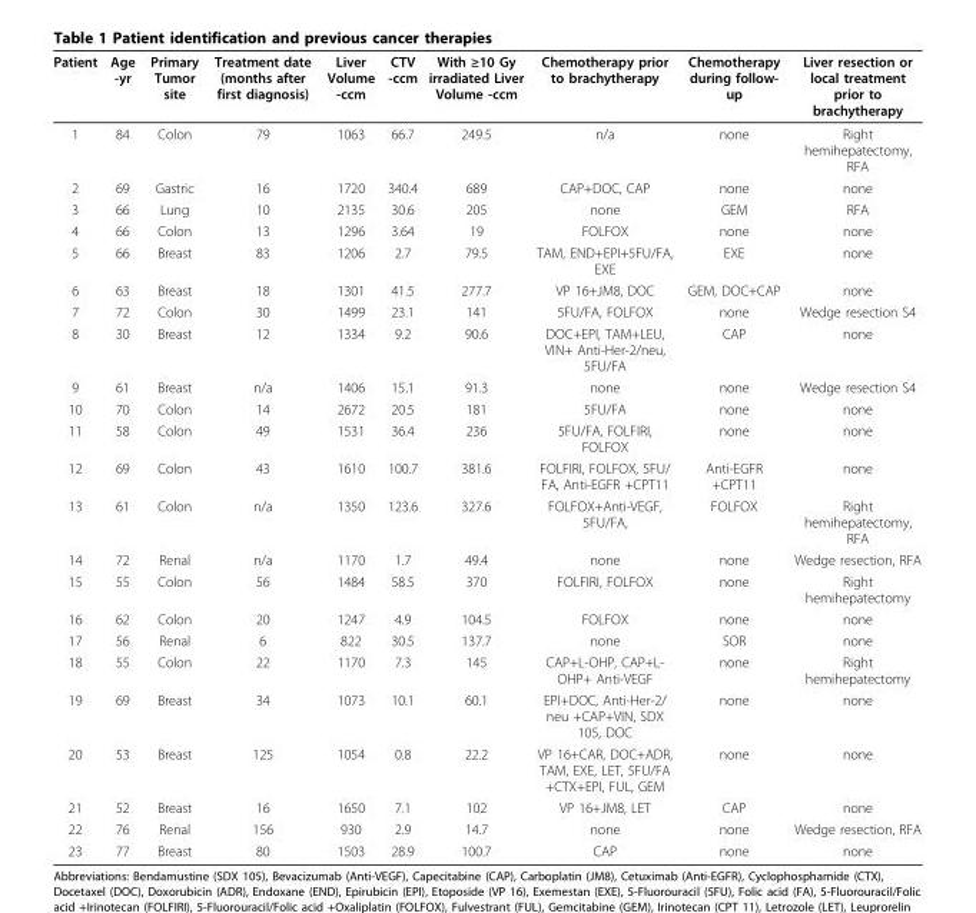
<table><thead><tr><td>Patient</td><td>Age -yr</td><td>Primary Tumor site</td><td>Treatment date (months after first diagnosis)</td><td>Liver Volume -ccm</td><td>CTV -ccm</td><td>With ≥10 Gy irradiated Liver Volume -ccm</td><td>Chemotherapy prior to brachytherapy</td><td>Chemotherapy during follow- up</td><td>Liver resection or local treatment prior to brachytherapy</td></tr></thead><tbody><tr><td>1</td><td>84</td><td>Colon</td><td>79</td><td>1063</td><td>66.7</td><td>249.5</td><td>n/a</td><td>none</td><td>Right hemihepatectomy, RFA</td></tr><tr><td>2</td><td>69</td><td>Gastric</td><td>16</td><td>1720</td><td>340.4</td><td>689</td><td>CAP+DOC, CAP</td><td>none</td><td>none</td></tr><tr><td>3</td><td>66</td><td>Lung</td><td>10</td><td>2135</td><td>30.6</td><td>205</td><td>none</td><td>GEM</td><td>RFA</td></tr><tr><td>4</td><td>66</td><td>Colon</td><td>13</td><td>1296</td><td>3.64</td><td>19</td><td>FOLFOX</td><td>none</td><td>none</td></tr><tr><td>5</td><td>66</td><td>Breast</td><td>83</td><td>1206</td><td>2.7</td><td>79.5</td><td>TAM, END+EPI+5FU/FA, EXE</td><td>EXE</td><td>none</td></tr><tr><td>6</td><td>63</td><td>Breast</td><td>18</td><td>1301</td><td>41.5</td><td>277.7</td><td>VP 16+JM8, DOC</td><td>GEM, DOC+CAP</td><td>none</td></tr><tr><td>7</td><td>72</td><td>Colon</td><td>30</td><td>1499</td><td>23.1</td><td>141</td><td>5FU/FA, FOLFOX</td><td>none</td><td>Wedge resection S4</td></tr><tr><td>8</td><td>30</td><td>Breast</td><td>12</td><td>1334</td><td>9.2</td><td>90.6</td><td>DOC+EPI, TAM+LEU, VIN+ Anti-Her-2/neu, 5FU/FA</td><td>CAP</td><td>none</td></tr><tr><td>9</td><td>61</td><td>Breast</td><td>n/a</td><td>1406</td><td>15.1</td><td>91.3</td><td>none</td><td>none</td><td>Wedge resection S4</td></tr><tr><td>10</td><td>70</td><td>Colon</td><td>14</td><td>2672</td><td>20.5</td><td>181</td><td>5FU/FA</td><td>none</td><td>none</td></tr><tr><td>11</td><td>58</td><td>Colon</td><td>49</td><td>1531</td><td>36.4</td><td>236</td><td>5FU/FA, FOLFIRI, FOLFOX</td><td>none</td><td>none</td></tr><tr><td>12</td><td>69</td><td>Colon</td><td>43</td><td>1610</td><td>100.7</td><td>381.6</td><td>FOLFIRI, FOLFOX, 5FU/ FA, Anti-EGFR +CPT11</td><td>Anti-EGFR +CPT11</td><td>none</td></tr><tr><td>13</td><td>61</td><td>Colon</td><td>n/a</td><td>1350</td><td>123.6</td><td>327.6</td><td>FOLFOX+Anti-VEGF, 5FU/FA,</td><td>FOLFOX</td><td>Right hemihepatectomy, RFA</td></tr><tr><td>14</td><td>72</td><td>Renal</td><td>n/a</td><td>1170</td><td>1.7</td><td>49.4</td><td>none</td><td>none</td><td>Wedge resection, RFA</td></tr><tr><td>15</td><td>55</td><td>Colon</td><td>56</td><td>1484</td><td>58.5</td><td>370</td><td>FOLFIRI, FOLFOX</td><td>none</td><td>Right hemihepatectomy</td></tr><tr><td>16</td><td>62</td><td>Colon</td><td>20</td><td>1247</td><td>4.9</td><td>104.5</td><td>FOLFOX</td><td>none</td><td>none</td></tr><tr><td>17</td><td>56</td><td>Renal</td><td>6</td><td>822</td><td>30.5</td><td>137.7</td><td>none</td><td>SOR</td><td>none</td></tr><tr><td>18</td><td>55</td><td>Colon</td><td>22</td><td>1170</td><td>7.3</td><td>145</td><td>CAP+L-OHP, CAP+L- OHP+ Anti-VEGF</td><td>none</td><td>Right hemihepatectomy</td></tr><tr><td>19</td><td>69</td><td>Breast</td><td>34</td><td>1073</td><td>10.1</td><td>60.1</td><td>EPI+DOC, Anti-Her-2/ neu +CAP+VIN, SDX 105, DOC</td><td>none</td><td>none</td></tr><tr><td>20</td><td>53</td><td>Breast</td><td>125</td><td>1054</td><td>0.8</td><td>22.2</td><td>VP 16+CAR, DOC+ADR, TAM, EXE, LET, 5FU/FA +CTX+EPI, FUL, GEM</td><td>none</td><td>none</td></tr><tr><td>21</td><td>52</td><td>Breast</td><td>16</td><td>1650</td><td>7.1</td><td>102</td><td>VP 16+JM8, LET</td><td>CAP</td><td>none</td></tr><tr><td>22</td><td>76</td><td>Renal</td><td>156</td><td>930</td><td>2.9</td><td>14.7</td><td>none</td><td>none</td><td>Wedge resection, RFA</td></tr><tr><td>23</td><td>77</td><td>Breast</td><td>80</td><td>1503</td><td>28.9</td><td>100.7</td><td>CAP</td><td>none</td><td>none</td></tr></tbody></table>